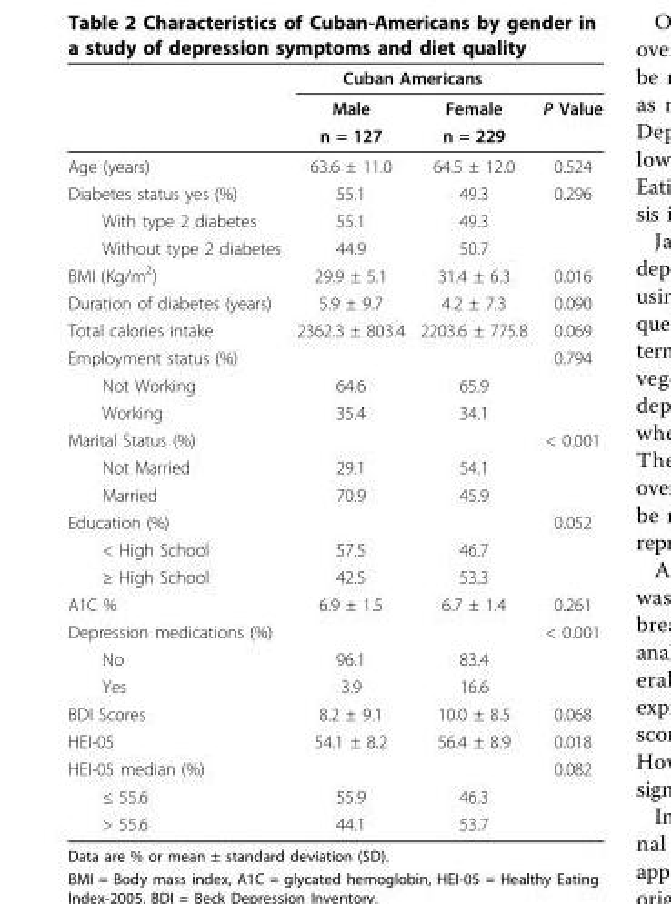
<table><thead><tr><td rowspan="3"></td><td colspan="2">Cuban Americans</td><td rowspan="3">P Value</td></tr><tr><td rowspan="2">Male n = 127</td><td rowspan="2">Female n = 229</td></tr><tr></tr></thead><tbody><tr><td>Age (years)</td><td>63.6 ± 11.0</td><td>64.5 ± 12.0</td><td>0.524</td></tr><tr><td>Diabetes status yes (%)</td><td>55.1</td><td>49.3</td><td>0.296</td></tr><tr><td>With type 2 diabetes</td><td>55.1</td><td>49.3</td><td></td></tr><tr><td>Without type 2 diabetes</td><td>44.9</td><td>50.7</td><td></td></tr><tr><td>BMI (Kg/m<sup>2</sup>)</td><td>29.9 ± 5.1</td><td>31.4 ± 6.3</td><td>0.016</td></tr><tr><td>Duration of diabetes (years)</td><td>5.9 ± 9.7</td><td>4.2 ± 7.3</td><td>0.090</td></tr><tr><td>Total calories intake</td><td>2362.3 ± 803.4</td><td>2203.6 ± 775.8</td><td>0.069</td></tr><tr><td>Employment status (%)</td><td></td><td></td><td>0.794</td></tr><tr><td>Not Working</td><td>64.6</td><td>65.9</td><td></td></tr><tr><td>Working</td><td>35.4</td><td>34.1</td><td></td></tr><tr><td>Marital Status (%)</td><td></td><td></td><td>&lt; 0.001</td></tr><tr><td>Not Married</td><td>29.1</td><td>54.1</td><td></td></tr><tr><td>Married</td><td>70.9</td><td>45.9</td><td></td></tr><tr><td>Education (%)</td><td></td><td></td><td>0.052</td></tr><tr><td>&lt; High School</td><td>57.5</td><td>46.7</td><td></td></tr><tr><td>≥ High School</td><td>42.5</td><td>53.3</td><td></td></tr><tr><td>A1C %</td><td>6.9 ± 1.5</td><td>6.7 ± 1.4</td><td>0.261</td></tr><tr><td>Depression medications (%)</td><td></td><td></td><td>&lt; 0.001</td></tr><tr><td>No</td><td>96.1</td><td>83.4</td><td></td></tr><tr><td>Yes</td><td>3.9</td><td>16.6</td><td></td></tr><tr><td>BDI Scores</td><td>8.2 ± 9.1</td><td>10.0 ± 8.5</td><td>0.068</td></tr><tr><td>HEI-05</td><td>54.1 ± 8.2</td><td>56.4 ± 8.9</td><td>0.018</td></tr><tr><td>HEI-05 median (%)</td><td></td><td></td><td>0.082</td></tr><tr><td>≤ 55.6</td><td>55.9</td><td>46.3</td><td></td></tr><tr><td>&gt; 55.6</td><td>44.1</td><td>53.7</td><td></td></tr></tbody></table>